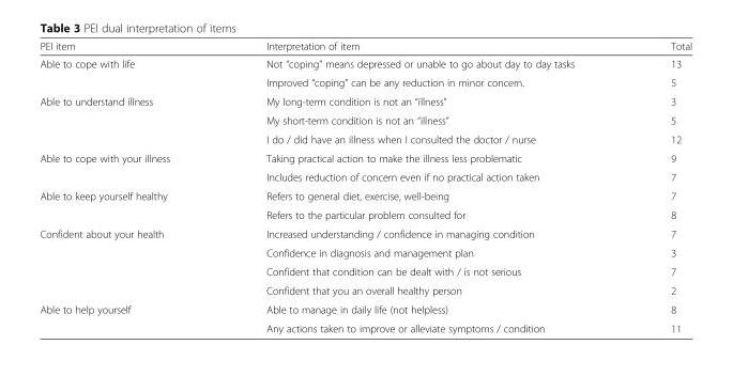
<table><thead><tr><td>PEI item</td><td>Interpretation of item</td><td>Total</td></tr></thead><tbody><tr><td rowspan="2">Able to cope with life</td><td>Not “coping” means depressed or unable to go about day to day tasks</td><td>13</td></tr><tr><td>Improved “coping” can be any reduction in minor concern.</td><td>5</td></tr><tr><td rowspan="3">Able to understand illness</td><td>My long-term condition is not an “illness”</td><td>3</td></tr><tr><td>My short-term condition is not an “illness”</td><td>5</td></tr><tr><td>I do / did have an illness when I consulted the doctor / nurse</td><td>12</td></tr><tr><td rowspan="2">Able to cope with your illness</td><td>Taking practical action to make the illness less problematic</td><td>9</td></tr><tr><td>Includes reduction of concern even if no practical action taken</td><td>7</td></tr><tr><td rowspan="2">Able to keep yourself healthy</td><td>Refers to general diet, exercise, well-being</td><td>7</td></tr><tr><td>Refers to the particular problem consulted for</td><td>8</td></tr><tr><td rowspan="4">Confident about your health</td><td>Increased understanding / confidence in managing condition</td><td>7</td></tr><tr><td>Confidence in diagnosis and management plan</td><td>3</td></tr><tr><td>Confident that condition can be dealt with / is not serious</td><td>7</td></tr><tr><td>Confident that you an overall healthy person</td><td>2</td></tr><tr><td rowspan="2">Able to help yourself</td><td>Able to manage in daily life (not helpless)</td><td>8</td></tr><tr><td>Any actions taken to improve or alleviate symptoms / condition</td><td>11</td></tr></tbody></table>